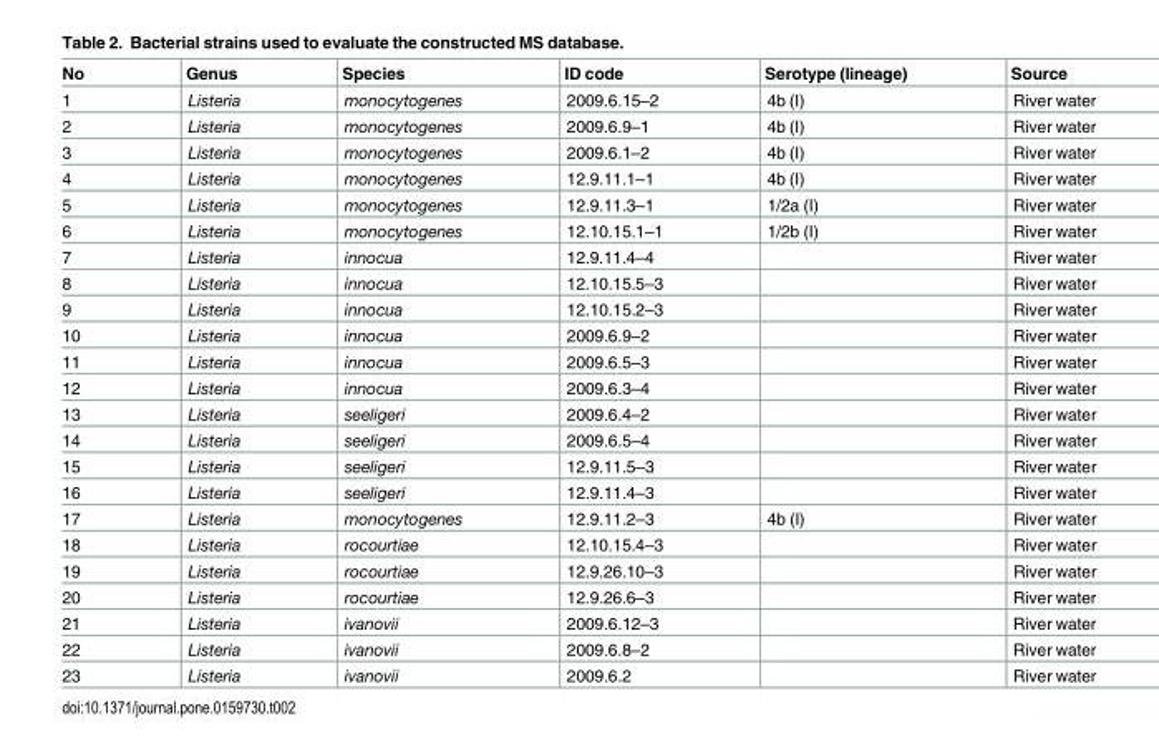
<table><thead><tr><td>No</td><td>Genus</td><td>Species</td><td>ID code</td><td>Serotype (lineage)</td><td>Source</td></tr></thead><tbody><tr><td>1</td><td>Listeria</td><td>monocytogenes</td><td>2009.6.15–2</td><td>4b (I)</td><td>River water</td></tr><tr><td>2</td><td>Listeria</td><td>monocytogenes</td><td>2009.6.9–1</td><td>4b (I)</td><td>River water</td></tr><tr><td>3</td><td>Listeria</td><td>monocytogenes</td><td>2009.6.1–2</td><td>4b (I)</td><td>River water</td></tr><tr><td>4</td><td>Listeria</td><td>monocytogenes</td><td>12.9.11.1–1</td><td>4b (I)</td><td>River water</td></tr><tr><td>5</td><td>Listeria</td><td>monocytogenes</td><td>12.9.11.3–1</td><td>1/2a (I)</td><td>River water</td></tr><tr><td>6</td><td>Listeria</td><td>monocytogenes</td><td>12.10.15.1–1</td><td>1/2b (I)</td><td>River water</td></tr><tr><td>7</td><td>Listeria</td><td>innocua</td><td>12.9.11.4–4</td><td></td><td>River water</td></tr><tr><td>8</td><td>Listeria</td><td>innocua</td><td>12.10.15.5–3</td><td></td><td>River water</td></tr><tr><td>9</td><td>Listeria</td><td>innocua</td><td>12.10.15.2–3</td><td></td><td>River water</td></tr><tr><td>10</td><td>Listeria</td><td>innocua</td><td>2009.6.9–2</td><td></td><td>River water</td></tr><tr><td>11</td><td>Listeria</td><td>innocua</td><td>2009.6.5–3</td><td></td><td>River water</td></tr><tr><td>12</td><td>Listeria</td><td>innocua</td><td>2009.6.3–4</td><td></td><td>River water</td></tr><tr><td>13</td><td>Listeria</td><td>seeligeri</td><td>2009.6.4–2</td><td></td><td>River water</td></tr><tr><td>14</td><td>Listeria</td><td>seeligeri</td><td>2009.6.5–4</td><td></td><td>River water</td></tr><tr><td>15</td><td>Listeria</td><td>seeligeri</td><td>12.9.11.5–3</td><td></td><td>River water</td></tr><tr><td>16</td><td>Listeria</td><td>seeligeri</td><td>12.9.11.4–3</td><td></td><td>River water</td></tr><tr><td>17</td><td>Listeria</td><td>monocytogenes</td><td>12.9.11.2–3</td><td>4b (I)</td><td>River water</td></tr><tr><td>18</td><td>Listeria</td><td>rocourtiae</td><td>12.10.15.4–3</td><td></td><td>River water</td></tr><tr><td>19</td><td>Listeria</td><td>rocourtiae</td><td>12.9.26.10–3</td><td></td><td>River water</td></tr><tr><td>20</td><td>Listeria</td><td>rocourtiae</td><td>12.9.26.6–3</td><td></td><td>River water</td></tr><tr><td>21</td><td>Listeria</td><td>ivanovii</td><td>2009.6.12–3</td><td></td><td>River water</td></tr><tr><td>22</td><td>Listeria</td><td>ivanovii</td><td>2009.6.8–2</td><td></td><td>River water</td></tr><tr><td>23</td><td>Listeria</td><td>ivanovii</td><td>2009.6.2</td><td></td><td>River water</td></tr></tbody></table>